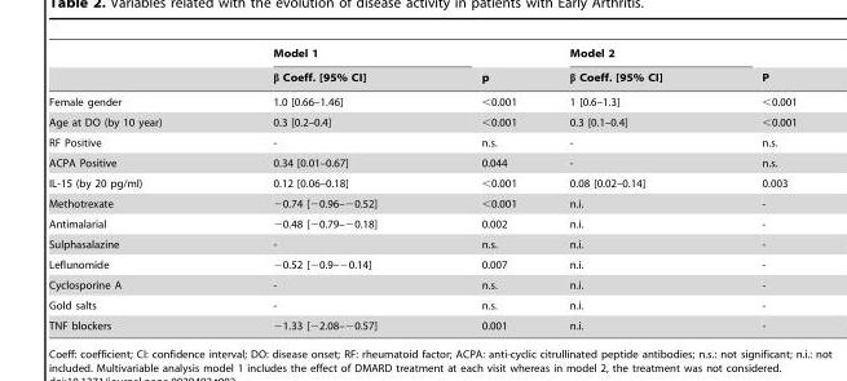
<table><thead><tr><td rowspan="2"></td><td rowspan="2">Model 1 β Coeff. [95% CI]</td><td rowspan="2">p</td><td rowspan="2">Model 2 β Coeff. [95% CI]</td><td rowspan="2">P</td></tr><tr></tr></thead><tbody><tr><td>Female gender</td><td>1.0 [0.66–1.46]</td><td>&lt;0.001</td><td>1 [0.6–1.3]</td><td>&lt;0.001</td></tr><tr><td>Age at DO (by 10 year)</td><td>0.3 [0.2–0.4]</td><td>&lt;0.001</td><td>0.3 [0.1–0.4]</td><td>&lt;0.001</td></tr><tr><td>RF Positive</td><td>-</td><td>n.s.</td><td>-</td><td>n.s.</td></tr><tr><td>ACPA Positive</td><td>0.34 [0.01–0.67]</td><td>0.044</td><td>-</td><td>n.s.</td></tr><tr><td>IL-15 (by 20 pg/ml)</td><td>0.12 [0.06–0.18]</td><td>&lt;0.001</td><td>0.08 [0.02–0.14]</td><td>0.003</td></tr><tr><td>Methotrexate</td><td>−0.74 [−0.96–−0.52]</td><td>&lt;0.001</td><td>n.i.</td><td>-</td></tr><tr><td>Antimalarial</td><td>−0.48 [−0.79–−0.18]</td><td>0.002</td><td>n.i.</td><td>-</td></tr><tr><td>Sulphasalazine</td><td>-</td><td>n.s.</td><td>n.i.</td><td>-</td></tr><tr><td>Leflunomide</td><td>−0.52 [−0.9–−0.14]</td><td>0.007</td><td>n.i.</td><td>-</td></tr><tr><td>Cyclosporine A</td><td>-</td><td>n.s.</td><td>n.i.</td><td>-</td></tr><tr><td>Gold salts</td><td>-</td><td>n.s.</td><td>n.i.</td><td>-</td></tr><tr><td>TNF blockers</td><td>−1.33 [−2.08–−0.57]</td><td>0.001</td><td>n.i.</td><td>-</td></tr></tbody></table>